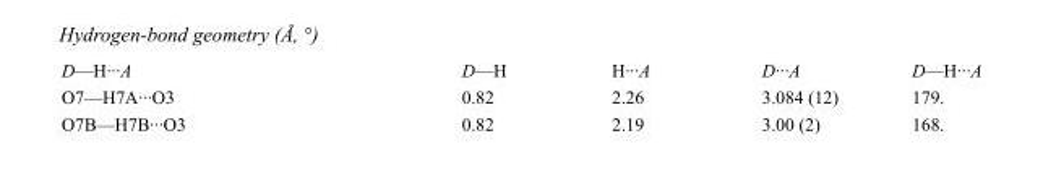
<table><tbody><tr><td>D—H···A</td><td>D—H</td><td>H···A</td><td>D···A</td><td>D—H···A</td></tr><tr><td>O7—H7A···O3</td><td>0.82</td><td>2.26</td><td>3.084 (12)</td><td>179.</td></tr><tr><td>O7B—H7B···O3</td><td>0.82</td><td>2.19</td><td>3.00 (2)</td><td>168.</td></tr></tbody></table>